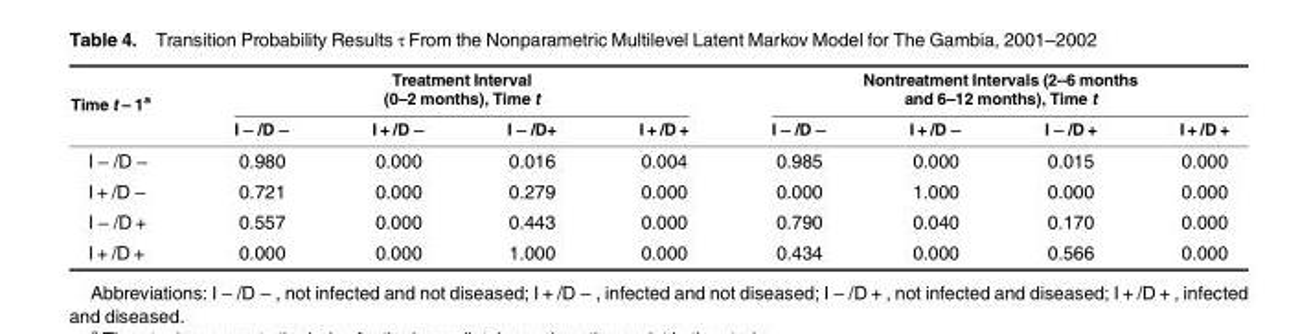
<table><thead><tr><td rowspan="2">Time t – 1<sup>a</sup></td><td colspan="4">Treatment Interval (0–2 months), Time t</td><td colspan="4">Nontreatment Intervals (2–6 months and 6–12 months), Time t</td></tr><tr><td>I − /D −</td><td>I + /D −</td><td>I − /D+</td><td>I + /D +</td><td>I − /D −</td><td>I + /D −</td><td>I − /D +</td><td>I + /D +</td></tr></thead><tbody><tr><td>I − /D −</td><td>0.980</td><td>0.000</td><td>0.016</td><td>0.004</td><td>0.985</td><td>0.000</td><td>0.015</td><td>0.000</td></tr><tr><td>I + /D −</td><td>0.721</td><td>0.000</td><td>0.279</td><td>0.000</td><td>0.000</td><td>1.000</td><td>0.000</td><td>0.000</td></tr><tr><td>I − /D +</td><td>0.557</td><td>0.000</td><td>0.443</td><td>0.000</td><td>0.790</td><td>0.040</td><td>0.170</td><td>0.000</td></tr><tr><td>I + /D +</td><td>0.000</td><td>0.000</td><td>1.000</td><td>0.000</td><td>0.434</td><td>0.000</td><td>0.566</td><td>0.000</td></tr></tbody></table>